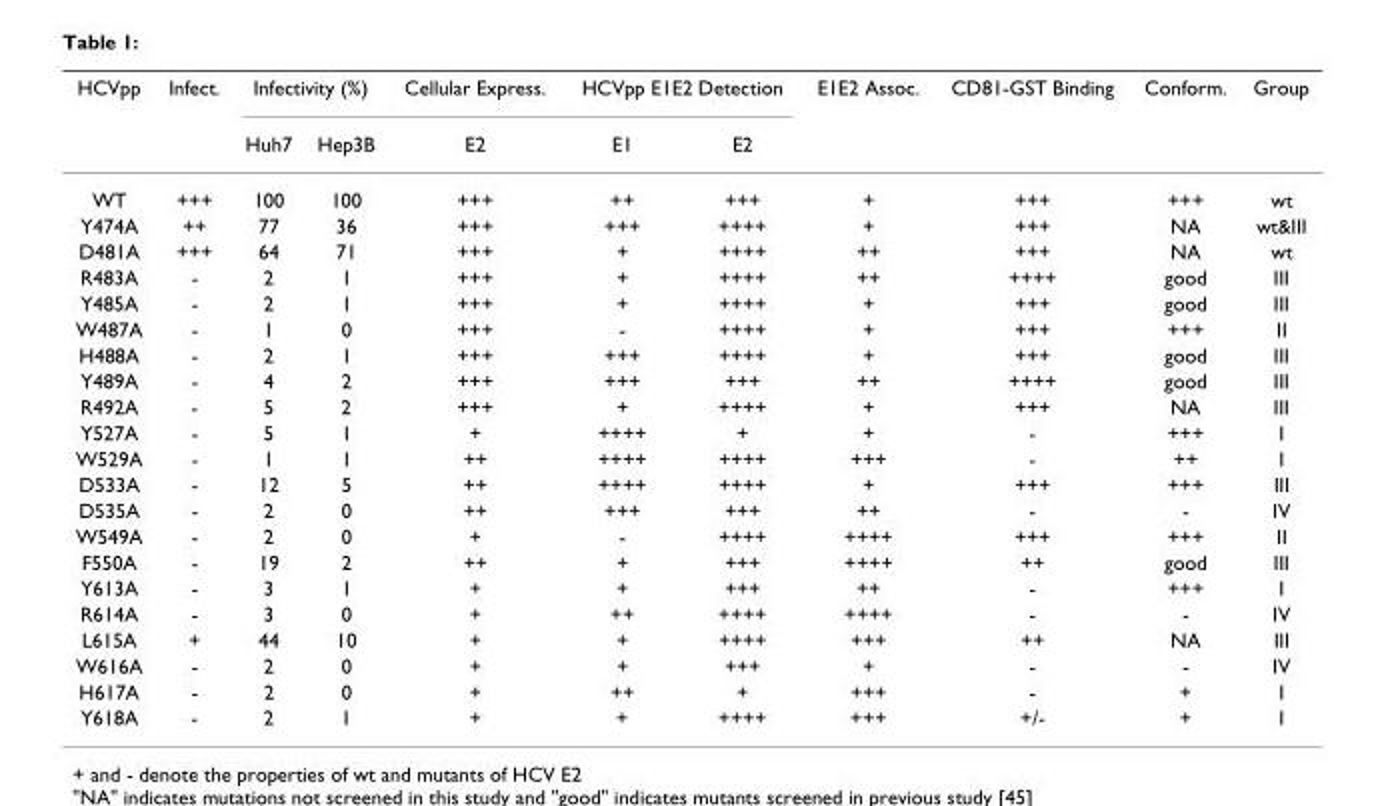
<table><thead><tr><td rowspan="2">HCVpp</td><td rowspan="2">Infect.</td><td colspan="2">Infectivity (%)</td><td rowspan="2">Cellular Express. E2</td><td colspan="2">HCVpp E1E2 Detection</td><td rowspan="2">E1E2 Assoc.</td><td rowspan="2">CD81-GST Binding</td><td rowspan="2">Conform.</td><td rowspan="2">Group</td></tr><tr><td>Huh7</td><td>Hep3B</td><td>E1</td><td>E2</td></tr></thead><tbody><tr><td>WT</td><td>+++</td><td>100</td><td>100</td><td>+++</td><td>++</td><td>+++</td><td>+</td><td>+++</td><td>+++</td><td>wt</td></tr><tr><td>Y474A</td><td>++</td><td>77</td><td>36</td><td>+++</td><td>+++</td><td>++++</td><td>+</td><td>+++</td><td>NA</td><td>wt&amp;III</td></tr><tr><td>D481A</td><td>+++</td><td>64</td><td>71</td><td>+++</td><td>+</td><td>++++</td><td>++</td><td>+++</td><td>NA</td><td>wt</td></tr><tr><td>R483A</td><td>-</td><td>2</td><td>1</td><td>+++</td><td>+</td><td>++++</td><td>++</td><td>++++</td><td>good</td><td>III</td></tr><tr><td>Y485A</td><td>-</td><td>2</td><td>1</td><td>+++</td><td>+</td><td>++++</td><td>+</td><td>+++</td><td>good</td><td>III</td></tr><tr><td>W487A</td><td>-</td><td>1</td><td>0</td><td>+++</td><td>-</td><td>++++</td><td>+</td><td>+++</td><td>+++</td><td>II</td></tr><tr><td>H488A</td><td>-</td><td>2</td><td>1</td><td>+++</td><td>+++</td><td>++++</td><td>+</td><td>+++</td><td>good</td><td>III</td></tr><tr><td>Y489A</td><td>-</td><td>4</td><td>2</td><td>+++</td><td>+++</td><td>+++</td><td>++</td><td>++++</td><td>good</td><td>III</td></tr><tr><td>R492A</td><td>-</td><td>5</td><td>2</td><td>+++</td><td>+</td><td>++++</td><td>+</td><td>+++</td><td>NA</td><td>III</td></tr><tr><td>Y527A</td><td>-</td><td>5</td><td>1</td><td>+</td><td>++++</td><td>+</td><td>+</td><td>-</td><td>+++</td><td>I</td></tr><tr><td>W529A</td><td>-</td><td>1</td><td>1</td><td>++</td><td>++++</td><td>++++</td><td>+++</td><td>-</td><td>++</td><td>I</td></tr><tr><td>D533A</td><td>-</td><td>12</td><td>5</td><td>++</td><td>++++</td><td>++++</td><td>+</td><td>+++</td><td>+++</td><td>III</td></tr><tr><td>D535A</td><td>-</td><td>2</td><td>0</td><td>++</td><td>+++</td><td>+++</td><td>++</td><td>-</td><td>-</td><td>IV</td></tr><tr><td>W549A</td><td>-</td><td>2</td><td>0</td><td>+</td><td>-</td><td>++++</td><td>++++</td><td>+++</td><td>+++</td><td>II</td></tr><tr><td>F550A</td><td>-</td><td>19</td><td>2</td><td>++</td><td>+</td><td>+++</td><td>++++</td><td>++</td><td>good</td><td>III</td></tr><tr><td>Y613A</td><td>-</td><td>3</td><td>1</td><td>+</td><td>+</td><td>+++</td><td>++</td><td>-</td><td>+++</td><td>I</td></tr><tr><td>R614A</td><td>-</td><td>3</td><td>0</td><td>+</td><td>++</td><td>++++</td><td>++++</td><td>-</td><td>-</td><td>IV</td></tr><tr><td>L615A</td><td>+</td><td>44</td><td>10</td><td>+</td><td>+</td><td>++++</td><td>+++</td><td>++</td><td>NA</td><td>III</td></tr><tr><td>W616A</td><td>-</td><td>2</td><td>0</td><td>+</td><td>+</td><td>+++</td><td>+</td><td>-</td><td>-</td><td>IV</td></tr><tr><td>H617A</td><td>-</td><td>2</td><td>0</td><td>+</td><td>++</td><td>+</td><td>+++</td><td>-</td><td>+</td><td>I</td></tr><tr><td>Y618A</td><td>-</td><td>2</td><td>1</td><td>+</td><td>+</td><td>++++</td><td>+++</td><td>+/-</td><td>+</td><td>I</td></tr></tbody></table>